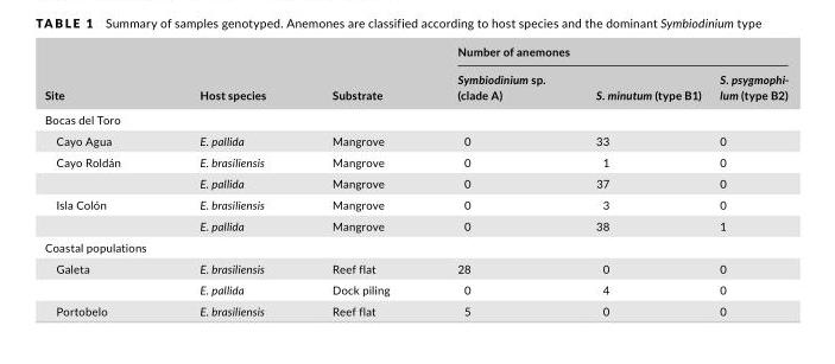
<table><thead><tr><td rowspan="2">Site</td><td rowspan="2">Host species</td><td rowspan="2">Substrate</td><td colspan="3">Number of anemones</td></tr><tr><td>Symbiodinium sp. (clade A)</td><td>S. minutum (type B1)</td><td>S. psygmophi- lum (type B2)</td></tr></thead><tbody><tr><td colspan="6">Bocas del Toro</td></tr><tr><td>Cayo Agua</td><td>E. pallida</td><td>Mangrove</td><td>0</td><td>33</td><td>0</td></tr><tr><td rowspan="2">Cayo Roldán</td><td>E. brasiliensis</td><td>Mangrove</td><td>0</td><td>1</td><td>0</td></tr><tr><td>E. pallida</td><td>Mangrove</td><td>0</td><td>37</td><td>0</td></tr><tr><td rowspan="2">Isla Colón</td><td>E. brasiliensis</td><td>Mangrove</td><td>0</td><td>3</td><td>0</td></tr><tr><td>E. pallida</td><td>Mangrove</td><td>0</td><td>38</td><td>1</td></tr><tr><td colspan="6">Coastal populations</td></tr><tr><td rowspan="2">Galeta</td><td>E. brasiliensis</td><td>Reef flat</td><td>28</td><td>0</td><td>0</td></tr><tr><td>E. pallida</td><td>Dock piling</td><td>0</td><td>4</td><td>0</td></tr><tr><td>Portobelo</td><td>E. brasiliensis</td><td>Reef flat</td><td>5</td><td>0</td><td>0</td></tr></tbody></table>